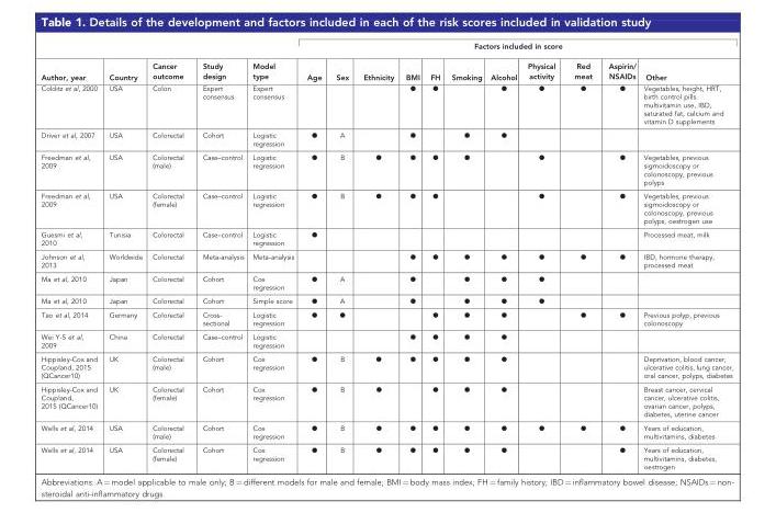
<table><thead><tr><td rowspan="2">Author, year</td><td rowspan="2">Country</td><td rowspan="2">Cancer outcome</td><td rowspan="2">Study design</td><td rowspan="2">Model type</td><td colspan="11">Factors included in score</td></tr><tr><td>Age</td><td>Sex</td><td>Ethnicity</td><td>BMI</td><td>FH</td><td>Smoking</td><td>Alcohol</td><td>Physical activity</td><td>Red meat</td><td>Aspirin/ NSAIDs</td><td>Other</td></tr></thead><tbody><tr><td>Colditz et al, 2000</td><td>USA</td><td>Colon</td><td>Expert consensus</td><td>Expert consensus</td><td></td><td></td><td></td><td>•</td><td>•</td><td></td><td>•</td><td>•</td><td>•</td><td>•</td><td>Vegetables, height, HRT, birth control pills. multivitamin use, IBD, saturated fat, calcium and vitamin D supplements</td></tr><tr><td>Driver et al, 2007</td><td>USA</td><td>Colorectal</td><td>Cohort</td><td>Logistic regression</td><td>•</td><td>A</td><td></td><td>•</td><td></td><td>•</td><td>•</td><td></td><td></td><td></td><td></td></tr><tr><td>Freedman et al, 2009</td><td>USA</td><td>Colorectal (male)</td><td>Case–control</td><td>Logistic regression</td><td>•</td><td>B</td><td>•</td><td>•</td><td>•</td><td>•</td><td></td><td>•</td><td></td><td>•</td><td>Vegetables, previous sigmoidoscopy or colonoscopy, previous polyps</td></tr><tr><td>Freedman et al, 2009</td><td>USA</td><td>Colorectal (female)</td><td>Case–control</td><td>Logistic regression</td><td>•</td><td>B</td><td>•</td><td>•</td><td>•</td><td></td><td></td><td>•</td><td></td><td>•</td><td>Vegetables, previous sigmoidoscopy or colonoscopy, previous polyps, oestrogen use</td></tr><tr><td>Guesmi et al, 2010</td><td>Tunisia</td><td>Colorectal</td><td>Case–control</td><td>Logistic regression</td><td>•</td><td></td><td></td><td></td><td></td><td></td><td></td><td></td><td></td><td></td><td>Processed meat, milk</td></tr><tr><td>Johnson et al, 2013</td><td>Worldwide</td><td>Colorectal</td><td>Meta-analysis</td><td>Meta-analysis</td><td></td><td></td><td></td><td>•</td><td>•</td><td>•</td><td>•</td><td>•</td><td>•</td><td>•</td><td>IBD, hormone therapy, processed meat</td></tr><tr><td>Ma et al, 2010</td><td>Japan</td><td>Colorectal</td><td>Cohort</td><td>Cox regression</td><td>•</td><td>A</td><td></td><td>•</td><td></td><td>•</td><td>•</td><td>•</td><td></td><td></td><td></td></tr><tr><td>Ma et al, 2010</td><td>Japan</td><td>Colorectal</td><td>Cohort</td><td>Simple score</td><td>•</td><td>A</td><td></td><td>•</td><td></td><td>•</td><td>•</td><td>•</td><td></td><td></td><td></td></tr><tr><td>Tao et al, 2014</td><td>Germany</td><td>Colorectal</td><td>Cross- sectional</td><td>Logistic regression</td><td>•</td><td>•</td><td></td><td></td><td>•</td><td>•</td><td>•</td><td></td><td>•</td><td>•</td><td>Previous polyp, previous colonoscopy</td></tr><tr><td>Wei Y-S et al, 2009</td><td>China</td><td>Colorectal</td><td>Case–control</td><td>Logistic regression</td><td></td><td></td><td></td><td>•</td><td>•</td><td>•</td><td>•</td><td></td><td></td><td></td><td></td></tr><tr><td>Hippisley-Cox and Coupland, 2015 (QCancer10)</td><td>UK</td><td>Colorectal (male)</td><td>Cohort</td><td>Cox regression</td><td>•</td><td>B</td><td>•</td><td>•</td><td>•</td><td>•</td><td>•</td><td></td><td></td><td></td><td>Deprivation, blood cancer, ulcerative colitis, lung cancer, oral cancer, polyps, diabetes</td></tr><tr><td>Hippisley-Cox and Coupland, 2015 (QCancer10)</td><td>UK</td><td>Colorectal (female)</td><td>Cohort</td><td>Cox regression</td><td>•</td><td>B</td><td>•</td><td></td><td>•</td><td>•</td><td>•</td><td></td><td></td><td></td><td>Breast cancer, cervical cancer, ulcerative colitis, ovarian cancer, polyps, diabetes, uterine cancer</td></tr><tr><td>Wells et al, 2014</td><td>USA</td><td>Colorectal (male)</td><td>Cohort</td><td>Cox regression</td><td>•</td><td>B</td><td>•</td><td>•</td><td>•</td><td>•</td><td>•</td><td>•</td><td>•</td><td>•</td><td>Years of education, multivitamins, diabetes</td></tr><tr><td>Wells et al, 2014</td><td>USA</td><td>Colorectal (female)</td><td>Cohort</td><td>Cox regression</td><td>•</td><td>B</td><td>•</td><td>•</td><td>•</td><td>•</td><td>•</td><td></td><td></td><td>•</td><td>Years of education, multivitamins, diabetes, oestrogen</td></tr></tbody></table>